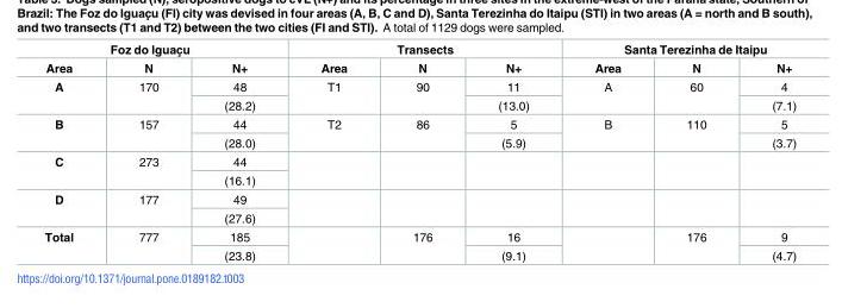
<table><thead><tr><td colspan="3">Foz do Iguac¸u</td><td colspan="3">Transects</td><td colspan="3">Santa Terezinha de Itaipu</td></tr><tr><td>Area</td><td>N</td><td>N+</td><td>Area</td><td>N</td><td>N+</td><td>Area</td><td>N</td><td>N+</td></tr></thead><tbody><tr><td rowspan="2">A</td><td rowspan="2">170</td><td>48</td><td rowspan="2">T1</td><td rowspan="2">90</td><td>11</td><td rowspan="2">A</td><td rowspan="2">60</td><td>4</td></tr><tr><td>(28.2)</td><td>(13.0)</td><td>(7.1)</td></tr><tr><td rowspan="2">B</td><td rowspan="2">157</td><td>44</td><td rowspan="2">T2</td><td rowspan="2">86</td><td>5</td><td rowspan="2">B</td><td rowspan="2">110</td><td>5</td></tr><tr><td>(28.0)</td><td>(5.9)</td><td>(3.7)</td></tr><tr><td rowspan="2">C</td><td rowspan="2">273</td><td>44</td><td rowspan="2"></td><td rowspan="2"></td><td rowspan="2"></td><td rowspan="2"></td><td rowspan="2"></td><td rowspan="2"></td></tr><tr><td>(16.1)</td></tr><tr><td rowspan="2">D</td><td rowspan="2">177</td><td>49</td><td rowspan="2"></td><td rowspan="2"></td><td rowspan="2"></td><td rowspan="2"></td><td rowspan="2"></td><td rowspan="2"></td></tr><tr><td>(27.6)</td></tr><tr><td rowspan="2">Total</td><td rowspan="2">777</td><td>185</td><td rowspan="2"></td><td rowspan="2">176</td><td>16</td><td rowspan="2"></td><td rowspan="2">176</td><td>9</td></tr><tr><td>(23.8)</td><td>(9.1)</td><td>(4.7)</td></tr></tbody></table>